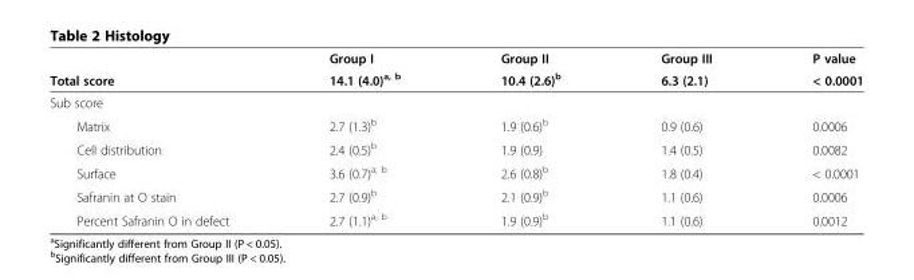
<table><thead><tr><td rowspan="2">Total score</td><td rowspan="2">Group I 14.1 (4.0)<sup>a, b</sup></td><td rowspan="2">Group II 10.4 (2.6)<sup>b</sup></td><td rowspan="2">Group III 6.3 (2.1)</td><td rowspan="2">P value &lt; 0.0001</td></tr><tr></tr></thead><tbody><tr><td colspan="5">Sub score</td></tr><tr><td>Matrix</td><td>2.7 (1.3)<sup>b</sup></td><td>1.9 (0.6)<sup>b</sup></td><td>0.9 (0.6)</td><td>0.0006</td></tr><tr><td>Cell distribution</td><td>2.4 (0.5)<sup>b</sup></td><td>1.9 (0.9)</td><td>1.4 (0.5)</td><td>0.0082</td></tr><tr><td>Surface</td><td>3.6 (0.7)<sup>a, b</sup></td><td>2.6 (0.8)<sup>b</sup></td><td>1.8 (0.4)</td><td>&lt; 0.0001</td></tr><tr><td>Safranin at O stain</td><td>2.7 (0.9)<sup>b</sup></td><td>2.1 (0.9)<sup>b</sup></td><td>1.1 (0.6)</td><td>0.0006</td></tr><tr><td>Percent Safranin O in defect</td><td>2.7 (1.1)<sup>a, b</sup></td><td>1.9 (0.9)<sup>b</sup></td><td>1.1 (0.6)</td><td>0.0012</td></tr></tbody></table>